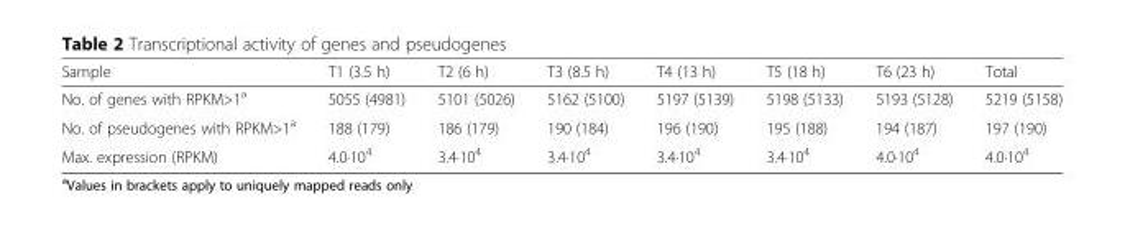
<table><thead><tr><td>Sample</td><td>T1 (3.5 h)</td><td>T2 (6 h)</td><td>T3 (8.5 h)</td><td>T4 (13 h)</td><td>T5 (18 h)</td><td>T6 (23 h)</td><td>Total</td></tr></thead><tbody><tr><td>No. of genes with RPKM&gt;1<sup>a</sup></td><td>5055 (4981)</td><td>5101 (5026)</td><td>5162 (5100)</td><td>5197 (5139)</td><td>5198 (5133)</td><td>5193 (5128)</td><td>5219 (5158)</td></tr><tr><td>No. of pseudogenes with RPKM&gt;1<sup>a</sup></td><td>188 (179)</td><td>186 (179)</td><td>190 (184)</td><td>196 (190)</td><td>195 (188)</td><td>194 (187)</td><td>197 (190)</td></tr><tr><td>Max. expression (RPKM)</td><td>4.0∙10<sup>4</sup></td><td>3.4∙10<sup>4</sup></td><td>3.4∙10<sup>4</sup></td><td>3.4∙10<sup>4</sup></td><td>3.4∙10<sup>4</sup></td><td>4.0∙10<sup>4</sup></td><td>4.0∙10<sup>4</sup></td></tr></tbody></table>